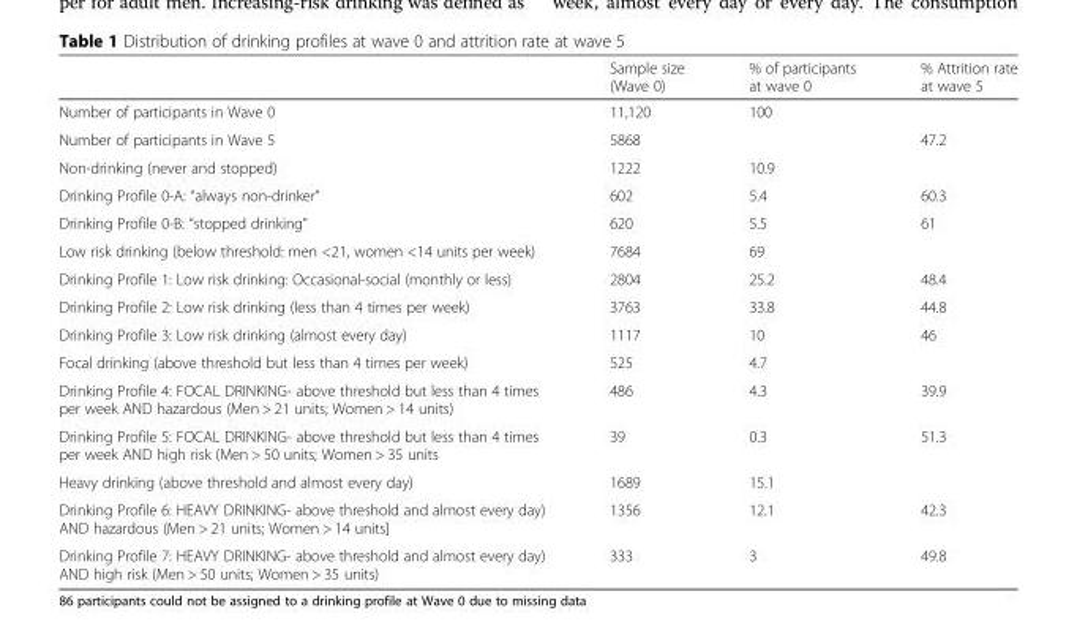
<table><thead><tr><td></td><td>Sample size (Wave 0)</td><td>% of participants at wave 0</td><td>% Attrition rate at wave 5</td></tr></thead><tbody><tr><td>Number of participants in Wave 0</td><td>11,120</td><td>100</td><td></td></tr><tr><td>Number of participants in Wave 5</td><td>5868</td><td></td><td>47.2</td></tr><tr><td>Non-drinking (never and stopped)</td><td>1222</td><td>10.9</td><td></td></tr><tr><td>Drinking Profile 0-A: “always non-drinker”</td><td>602</td><td>5.4</td><td>60.3</td></tr><tr><td>Drinking Profile 0-B: “stopped drinking”</td><td>620</td><td>5.5</td><td>61</td></tr><tr><td>Low risk drinking (below threshold: men &lt;21, women &lt;14 units per week)</td><td>7684</td><td>69</td><td></td></tr><tr><td>Drinking Profile 1: Low risk drinking: Occasional-social (monthly or less)</td><td>2804</td><td>25.2</td><td>48.4</td></tr><tr><td>Drinking Profile 2: Low risk drinking (less than 4 times per week)</td><td>3763</td><td>33.8</td><td>44.8</td></tr><tr><td>Drinking Profile 3: Low risk drinking (almost every day)</td><td>1117</td><td>10</td><td>46</td></tr><tr><td>Focal drinking (above threshold but less than 4 times per week)</td><td>525</td><td>4.7</td><td></td></tr><tr><td>Drinking Profile 4: FOCAL DRINKING- above threshold but less than 4 times per week AND hazardous (Men &gt; 21 units; Women &gt; 14 units)</td><td>486</td><td>4.3</td><td>39.9</td></tr><tr><td>Drinking Profile 5: FOCAL DRINKING- above threshold but less than 4 times per week AND high risk (Men &gt; 50 units; Women &gt; 35 units</td><td>39</td><td>0.3</td><td>51.3</td></tr><tr><td>Heavy drinking (above threshold and almost every day)</td><td>1689</td><td>15.1</td><td></td></tr><tr><td>Drinking Profile 6: HEAVY DRINKING- above threshold and almost every day) AND hazardous (Men &gt; 21 units; Women &gt; 14 units]</td><td>1356</td><td>12.1</td><td>42.3</td></tr><tr><td>Drinking Profile 7: HEAVY DRINKING- above threshold and almost every day) AND high risk (Men &gt; 50 units; Women &gt; 35 units)</td><td>333</td><td>3</td><td>49.8</td></tr></tbody></table>